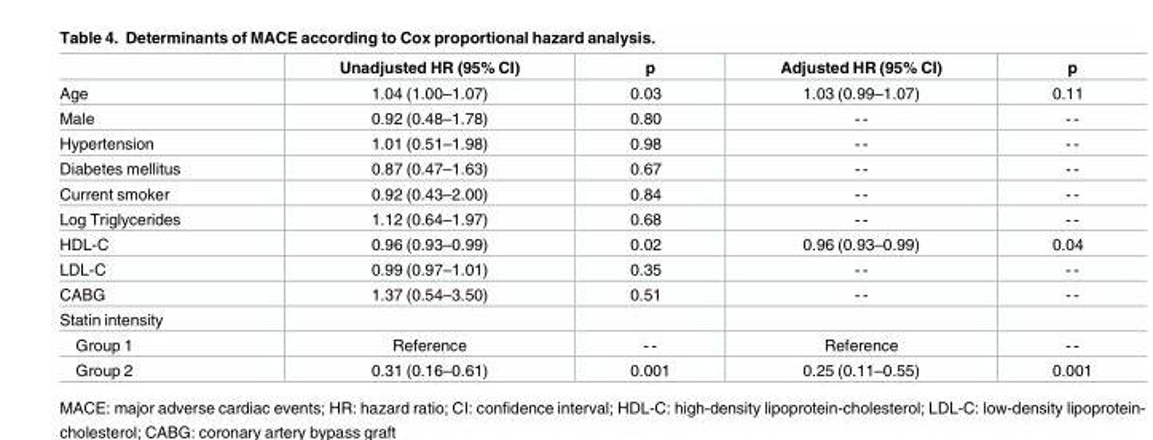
<table><thead><tr><td></td><td>Unadjusted HR (95% CI)</td><td>p</td><td>Adjusted HR (95% CI)</td><td>p</td></tr></thead><tbody><tr><td>Age</td><td>1.04 (1.00–1.07)</td><td>0.03</td><td>1.03 (0.99–1.07)</td><td>0.11</td></tr><tr><td>Male</td><td>0.92 (0.48–1.78)</td><td>0.80</td><td>- -</td><td>- -</td></tr><tr><td>Hypertension</td><td>1.01 (0.51–1.98)</td><td>0.98</td><td>- -</td><td>- -</td></tr><tr><td>Diabetes mellitus</td><td>0.87 (0.47–1.63)</td><td>0.67</td><td>- -</td><td>- -</td></tr><tr><td>Current smoker</td><td>0.92 (0.43–2.00)</td><td>0.84</td><td>- -</td><td>- -</td></tr><tr><td>Log Triglycerides</td><td>1.12 (0.64–1.97)</td><td>0.68</td><td>- -</td><td>- -</td></tr><tr><td>HDL-C</td><td>0.96 (0.93–0.99)</td><td>0.02</td><td>0.96 (0.93–0.99)</td><td>0.04</td></tr><tr><td>LDL-C</td><td>0.99 (0.97–1.01)</td><td>0.35</td><td>- -</td><td>- -</td></tr><tr><td>CABG</td><td>1.37 (0.54–3.50)</td><td>0.51</td><td>- -</td><td>- -</td></tr><tr><td colspan="5">Statin intensity</td></tr><tr><td>Group 1</td><td>Reference</td><td>- -</td><td>Reference</td><td>- -</td></tr><tr><td>Group 2</td><td>0.31 (0.16–0.61)</td><td>0.001</td><td>0.25 (0.11–0.55)</td><td>0.001</td></tr></tbody></table>